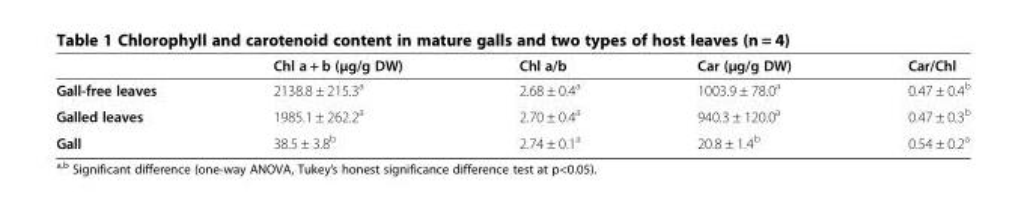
<table><thead><tr><td></td><td>Chl a + b (μg/g DW)</td><td>Chl a/b</td><td>Car (μg/g DW)</td><td>Car/Chl</td></tr></thead><tbody><tr><td>Gall-free leaves</td><td>2138.8 ± 215.3<sup>a</sup></td><td>2.68 ± 0.4<sup>a</sup></td><td>1003.9 ± 78.0<sup>a</sup></td><td>0.47 ± 0.4<sup>b</sup></td></tr><tr><td>Galled leaves</td><td>1985.1 ± 262.2<sup>a</sup></td><td>2.70 ± 0.4<sup>a</sup></td><td>940.3 ± 120.0<sup>a</sup></td><td>0.47 ± 0.3<sup>b</sup></td></tr><tr><td>Gall</td><td>38.5 ± 3.8<sup>b</sup></td><td>2.74 ± 0.1<sup>a</sup></td><td>20.8 ± 1.4<sup>b</sup></td><td>0.54 ± 0.2<sup>a</sup></td></tr></tbody></table>